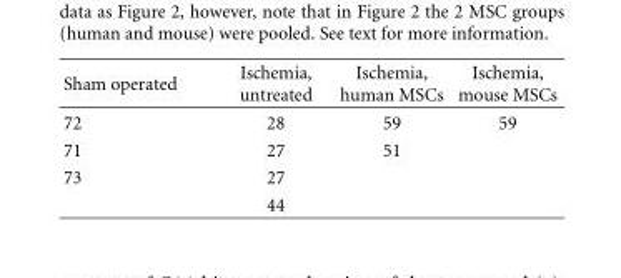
<table><thead><tr><td>Sham operated</td><td>Ischemia, untreated</td><td>Ischemia, human MSCs</td><td>Ischemia, mouse MSCs</td></tr></thead><tbody><tr><td>72</td><td>28</td><td>59</td><td>59</td></tr><tr><td>71</td><td>27</td><td>51</td><td></td></tr><tr><td rowspan="2">73</td><td>27</td><td></td><td></td></tr><tr><td>44</td><td></td><td></td></tr></tbody></table>